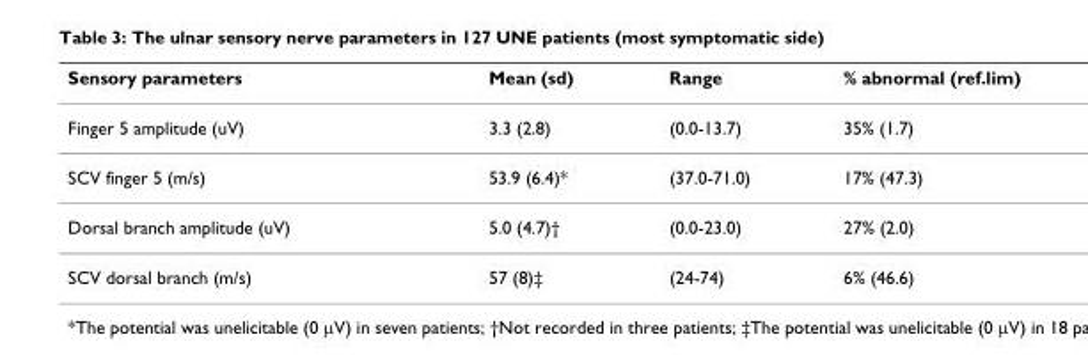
<table><thead><tr><td>Sensory parameters</td><td>Mean (sd)</td><td>Range</td><td>% abnormal (ref.lim)</td></tr></thead><tbody><tr><td>Finger 5 amplitude (uV)</td><td>3.3 (2.8)</td><td>(0.0-13.7)</td><td>35% (1.7)</td></tr><tr><td>SCV finger 5 (m/s)</td><td>53.9 (6.4)*</td><td>(37.0-71.0)</td><td>17% (47.3)</td></tr><tr><td>Dorsal branch amplitude (uV)</td><td>5.0 (4.7)†</td><td>(0.0-23.0)</td><td>27% (2.0)</td></tr><tr><td>SCV dorsal branch (m/s)</td><td>57 (8)‡</td><td>(24-74)</td><td>6% (46.6)</td></tr></tbody></table>